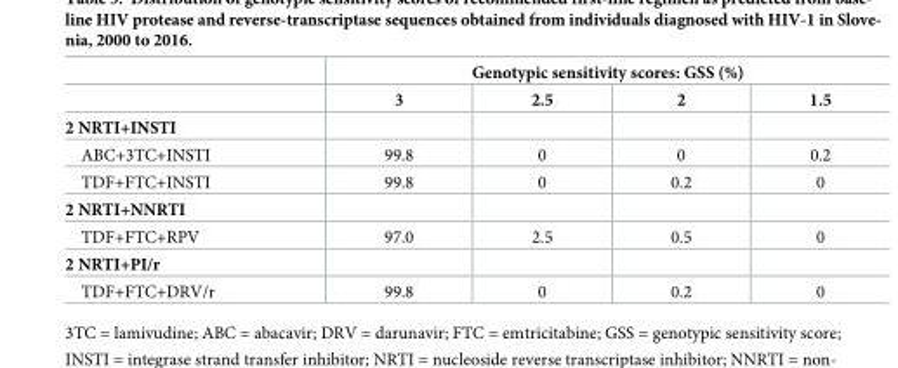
<table><thead><tr><td rowspan="2"></td><td colspan="4">Genotypic sensitivity scores: GSS (%)</td></tr><tr><td>3</td><td>2.5</td><td>2</td><td>1.5</td></tr></thead><tbody><tr><td colspan="5">2 NRTI+INSTI</td></tr><tr><td>ABC+3TC+INSTI</td><td>99.8</td><td>0</td><td>0</td><td>0.2</td></tr><tr><td>TDF+FTC+INSTI</td><td>99.8</td><td>0</td><td>0.2</td><td>0</td></tr><tr><td colspan="5">2 NRTI+NNRTI</td></tr><tr><td>TDF+FTC+RPV</td><td>97.0</td><td>2.5</td><td>0.5</td><td>0</td></tr><tr><td colspan="5">2 NRTI+PI/r</td></tr><tr><td>TDF+FTC+DRV/r</td><td>99.8</td><td>0</td><td>0.2</td><td>0</td></tr></tbody></table>